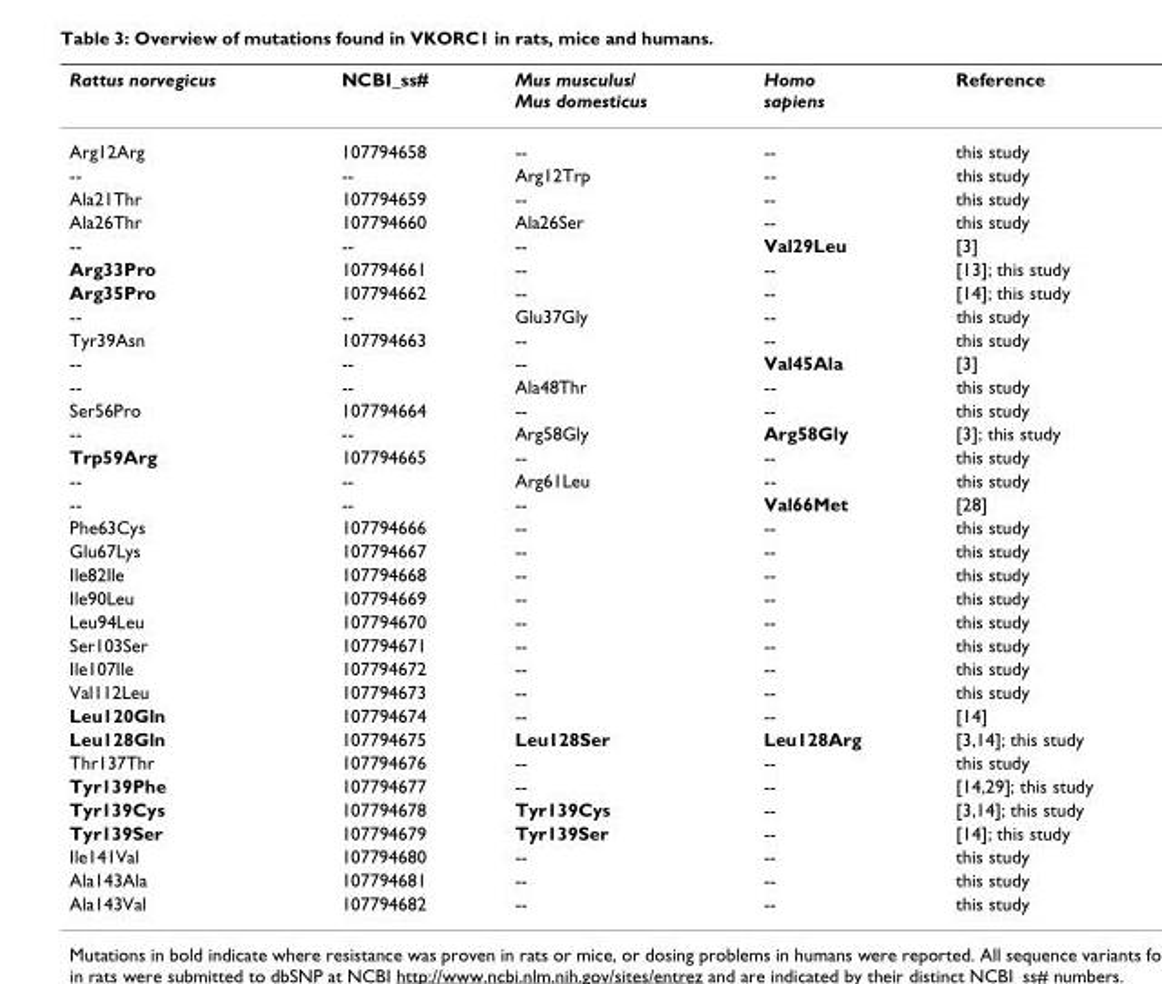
<table><thead><tr><td>Rattus norvegicus</td><td>NCBI_ss#</td><td>Mus musculus/ Mus domesticus</td><td>Homo sapiens</td><td>Reference</td></tr></thead><tbody><tr><td>Arg12Arg</td><td>107794658</td><td>--</td><td>--</td><td>this study</td></tr><tr><td>--</td><td>--</td><td>Arg12Trp</td><td>--</td><td>this study</td></tr><tr><td>Ala21Thr</td><td>107794659</td><td>--</td><td>--</td><td>this study</td></tr><tr><td>Ala26Thr</td><td>107794660</td><td>Ala26Ser</td><td>--</td><td>this study</td></tr><tr><td>--</td><td>--</td><td>--</td><td>Val29Leu</td><td>[3]</td></tr><tr><td>Arg33Pro</td><td>107794661</td><td>--</td><td>--</td><td>[13]; this study</td></tr><tr><td>Arg35Pro</td><td>107794662</td><td>--</td><td>--</td><td>[14]; this study</td></tr><tr><td>--</td><td>--</td><td>Glu37Gly</td><td>--</td><td>this study</td></tr><tr><td>Tyr39Asn</td><td>107794663</td><td>--</td><td>--</td><td>this study</td></tr><tr><td>--</td><td>--</td><td>--</td><td>Val45Ala</td><td>[3]</td></tr><tr><td>--</td><td>--</td><td>Ala48Thr</td><td>--</td><td>this study</td></tr><tr><td>Ser56Pro</td><td>107794664</td><td>--</td><td>--</td><td>this study</td></tr><tr><td>--</td><td>--</td><td>Arg58Gly</td><td>Arg58Gly</td><td>[3]; this study</td></tr><tr><td>Trp59Arg</td><td>107794665</td><td>--</td><td>--</td><td>this study</td></tr><tr><td>--</td><td>--</td><td>Arg61Leu</td><td>--</td><td>this study</td></tr><tr><td>--</td><td>--</td><td>--</td><td>Val66Met</td><td>[28]</td></tr><tr><td>Phe63Cys</td><td>107794666</td><td>--</td><td>--</td><td>this study</td></tr><tr><td>Glu67Lys</td><td>107794667</td><td>--</td><td>--</td><td>this study</td></tr><tr><td>Ile82Ile</td><td>107794668</td><td>--</td><td>--</td><td>this study</td></tr><tr><td>Ile90Leu</td><td>107794669</td><td>--</td><td>--</td><td>this study</td></tr><tr><td>Leu94Leu</td><td>107794670</td><td>--</td><td>--</td><td>this study</td></tr><tr><td>Ser103Ser</td><td>107794671</td><td>--</td><td>--</td><td>this study</td></tr><tr><td>Ile107Ile</td><td>107794672</td><td>--</td><td>--</td><td>this study</td></tr><tr><td>Val112Leu</td><td>107794673</td><td>--</td><td>--</td><td>this study</td></tr><tr><td>Leu120Gln</td><td>107794674</td><td>--</td><td>--</td><td>[14]</td></tr><tr><td>Leu128Gln</td><td>107794675</td><td>Leu128Ser</td><td>Leu128Arg</td><td>[3,14]; this study</td></tr><tr><td>Thr137Thr</td><td>107794676</td><td>--</td><td>--</td><td>this study</td></tr><tr><td>Tyr139Phe</td><td>107794677</td><td>--</td><td>--</td><td>[14,29]; this study</td></tr><tr><td>Tyr139Cys</td><td>107794678</td><td>Tyr139Cys</td><td>--</td><td>[3,14]; this study</td></tr><tr><td>Tyr139Ser</td><td>107794679</td><td>Tyr139Ser</td><td>--</td><td>[14]; this study</td></tr><tr><td>Ile141Val</td><td>107794680</td><td>--</td><td>--</td><td>this study</td></tr><tr><td>Ala143Ala</td><td>107794681</td><td>--</td><td>--</td><td>this study</td></tr><tr><td>Ala143Val</td><td>107794682</td><td>--</td><td>--</td><td>this study</td></tr></tbody></table>